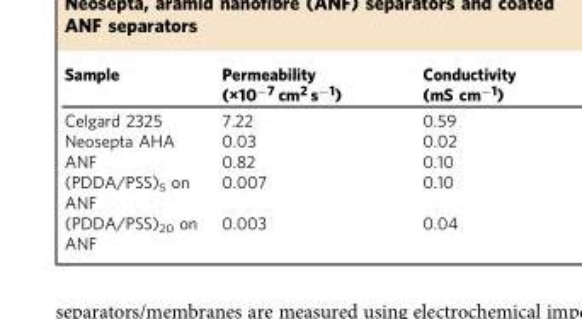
<table><thead><tr><td>Sample</td><td>Permeability (×10<sup>−7</sup> cm<sup>2</sup> s<sup>−1</sup>)</td><td>Conductivity (mS cm<sup>−1</sup>)</td></tr></thead><tbody><tr><td>Celgard 2325</td><td>7.22</td><td>0.59</td></tr><tr><td>Neosepta AHA</td><td>0.03</td><td>0.02</td></tr><tr><td>ANF</td><td>0.82</td><td>0.10</td></tr><tr><td>(PDDA/PSS)<sub>5</sub> on ANF</td><td>0.007</td><td>0.10</td></tr><tr><td>(PDDA/PSS)<sub>20</sub> on ANF</td><td>0.003</td><td>0.04</td></tr></tbody></table>